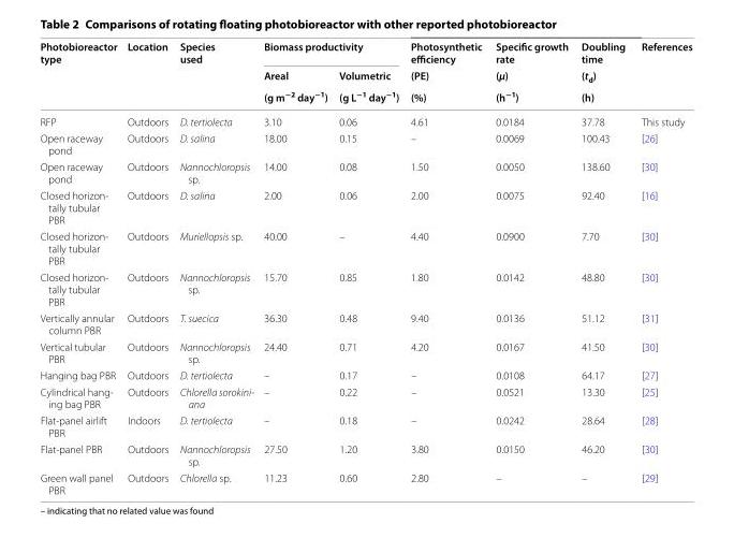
<table><thead><tr><td rowspan="3">Photobioreactor type</td><td rowspan="3">Location</td><td rowspan="3">Species used</td><td colspan="2">Biomass productivity</td><td rowspan="3">Photosynthetic efficiency (PE) (%)</td><td rowspan="3">Specific growth rate (μ) (h<sup>−1</sup>)</td><td rowspan="3">Doubling time (t<sub>d</sub>) (h)</td><td rowspan="3">References</td></tr><tr><td rowspan="2">Areal (g m<sup>−2</sup> day<sup>−1</sup>)</td><td rowspan="2">Volumetric (g L<sup>−1</sup> day<sup>−1</sup>)</td></tr><tr></tr></thead><tbody><tr><td>RFP</td><td>Outdoors</td><td>D. tertiolecta</td><td>3.10</td><td>0.06</td><td>4.61</td><td>0.0184</td><td>37.78</td><td>This study</td></tr><tr><td>Open raceway pond</td><td>Outdoors</td><td>D. salina</td><td>18.00</td><td>0.15</td><td>–</td><td>0.0069</td><td>100.43</td><td>[26]</td></tr><tr><td>Open raceway pond</td><td>Outdoors</td><td>Nannochloropsis sp.</td><td>14.00</td><td>0.08</td><td>1.50</td><td>0.0050</td><td>138.60</td><td>[30]</td></tr><tr><td>Closed horizon- tally tubular PBR</td><td>Outdoors</td><td>D. salina</td><td>2.00</td><td>0.06</td><td>2.00</td><td>0.0075</td><td>92.40</td><td>[16]</td></tr><tr><td>Closed horizon- tally tubular PBR</td><td>Outdoors</td><td>Muriellopsis sp.</td><td>40.00</td><td>–</td><td>4.40</td><td>0.0900</td><td>7.70</td><td>[30]</td></tr><tr><td>Closed horizon- tally tubular PBR</td><td>Outdoors</td><td>Nannochloropsis sp.</td><td>15.70</td><td>0.85</td><td>1.80</td><td>0.0142</td><td>48.80</td><td>[30]</td></tr><tr><td>Vertically annular column PBR</td><td>Outdoors</td><td>T. suecica</td><td>36.30</td><td>0.48</td><td>9.40</td><td>0.0136</td><td>51.12</td><td>[31]</td></tr><tr><td>Vertical tubular PBR</td><td>Outdoors</td><td>Nannochloropsis sp.</td><td>24.40</td><td>0.71</td><td>4.20</td><td>0.0167</td><td>41.50</td><td>[30]</td></tr><tr><td>Hanging bag PBR</td><td>Outdoors</td><td>D. tertiolecta</td><td>–</td><td>0.17</td><td>–</td><td>0.0108</td><td>64.17</td><td>[27]</td></tr><tr><td>Cylindrical hang- ing bag PBR</td><td>Outdoors</td><td>Chlorella sorokini- ana</td><td>–</td><td>0.22</td><td>–</td><td>0.0521</td><td>13.30</td><td>[25]</td></tr><tr><td>Flat-panel airlift PBR</td><td>Indoors</td><td>D. tertiolecta</td><td>–</td><td>0.18</td><td>–</td><td>0.0242</td><td>28.64</td><td>[28]</td></tr><tr><td>Flat-panel PBR</td><td>Outdoors</td><td>Nannochloropsis sp.</td><td>27.50</td><td>1.20</td><td>3.80</td><td>0.0150</td><td>46.20</td><td>[30]</td></tr><tr><td>Green wall panel PBR</td><td>Outdoors</td><td>Chlorella sp.</td><td>11.23</td><td>0.60</td><td>2.80</td><td>–</td><td>–</td><td>[29]</td></tr></tbody></table>